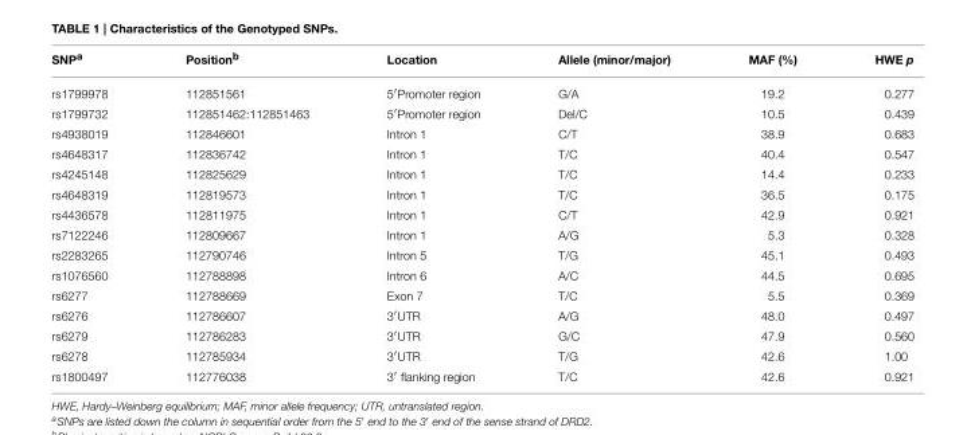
<table><thead><tr><td>SNP<sup>a</sup></td><td>Position<sup>b</sup></td><td>Location</td><td>Allele (minor/major)</td><td>MAF (%)</td><td>HWE p</td></tr></thead><tbody><tr><td>rs1799978</td><td>112851561</td><td>5′Promoter region</td><td>G/A</td><td>19.2</td><td>0.277</td></tr><tr><td>rs1799732</td><td>112851462:112851463</td><td>5′Promoter region</td><td>Del/C</td><td>10.5</td><td>0.439</td></tr><tr><td>rs4938019</td><td>112846601</td><td>Intron 1</td><td>C/T</td><td>38.9</td><td>0.683</td></tr><tr><td>rs4648317</td><td>112836742</td><td>Intron 1</td><td>T/C</td><td>40.4</td><td>0.547</td></tr><tr><td>rs4245148</td><td>112825629</td><td>Intron 1</td><td>T/C</td><td>14.4</td><td>0.233</td></tr><tr><td>rs4648319</td><td>112819573</td><td>Intron 1</td><td>T/C</td><td>36.5</td><td>0.175</td></tr><tr><td>rs4436578</td><td>112811975</td><td>Intron 1</td><td>C/T</td><td>42.9</td><td>0.921</td></tr><tr><td>rs7122246</td><td>112809667</td><td>Intron 1</td><td>A/G</td><td>5.3</td><td>0.328</td></tr><tr><td>rs2283265</td><td>112790746</td><td>Intron 5</td><td>T/G</td><td>45.1</td><td>0.493</td></tr><tr><td>rs1076560</td><td>112788898</td><td>Intron 6</td><td>A/C</td><td>44.5</td><td>0.695</td></tr><tr><td>rs6277</td><td>112788669</td><td>Exon 7</td><td>T/C</td><td>5.5</td><td>0.369</td></tr><tr><td>rs6276</td><td>112786607</td><td>3′UTR</td><td>A/G</td><td>48.0</td><td>0.497</td></tr><tr><td>rs6279</td><td>112786283</td><td>3′UTR</td><td>G/C</td><td>47.9</td><td>0.560</td></tr><tr><td>rs6278</td><td>112785934</td><td>3′UTR</td><td>T/G</td><td>42.6</td><td>1.00</td></tr><tr><td>rs1800497</td><td>112776038</td><td>3′ flanking region</td><td>T/C</td><td>42.6</td><td>0.921</td></tr></tbody></table>